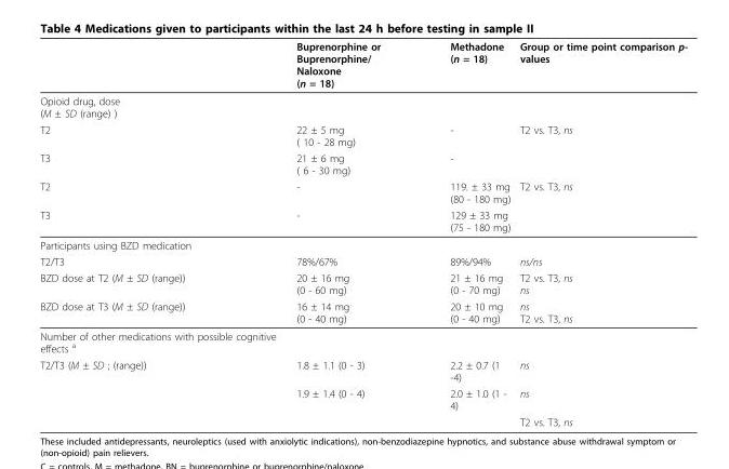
<table><thead><tr><td></td><td>Buprenorphine or Buprenorphine/ Naloxone (n = 18)</td><td>Methadone (n = 18)</td><td>Group or time point comparison p- values</td></tr></thead><tbody><tr><td colspan="4">Opioid drug, dose (M ± SD (range) )</td></tr><tr><td>T2</td><td>22 ± 5 mg ( 10 - 28 mg)</td><td>-</td><td>T2 vs. T3, ns</td></tr><tr><td>T3</td><td>21 ± 6 mg ( 6 - 30 mg)</td><td>-</td><td></td></tr><tr><td>T2</td><td>-</td><td>119. ± 33 mg (80 - 180 mg)</td><td>T2 vs. T3, ns</td></tr><tr><td>T3</td><td>-</td><td>129 ± 33 mg (75 - 180 mg)</td><td></td></tr><tr><td colspan="4">Participants using BZD medication</td></tr><tr><td>T2/T3</td><td>78%/67%</td><td>89%/94%</td><td>ns/ns</td></tr><tr><td>BZD dose at T2 (M ± SD (range))</td><td>20 ± 16 mg (0 - 60 mg)</td><td>21 ± 16 mg (0 - 70 mg)</td><td>T2 vs. T3, ns ns</td></tr><tr><td>BZD dose at T3 (M ± SD (range))</td><td>16 ± 14 mg (0 - 40 mg)</td><td>20 ± 10 mg (0 - 40 mg)</td><td>ns T2 vs. T3, ns</td></tr><tr><td colspan="4">Number of other medications with possible cognitive effects <sup>a</sup></td></tr><tr><td rowspan="3">T2/T3 (M ± SD ; (range))</td><td>1.8 ± 1.1 (0 - 3)</td><td>2.2 ± 0.7 (1 -4)</td><td>ns</td></tr><tr><td>1.9 ± 1.4 (0 - 4)</td><td>2.0 ± 1.0 (1 - 4)</td><td>ns</td></tr><tr><td></td><td></td><td>T2 vs. T3, ns</td></tr></tbody></table>